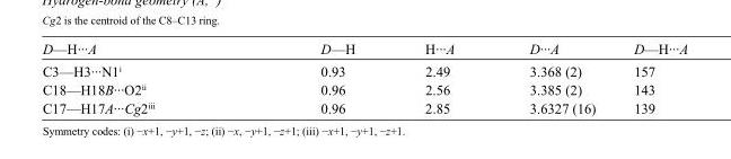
<table><tbody><tr><td>D—H···A</td><td>D—H</td><td>H···A</td><td>D···A</td><td>D—H···A</td></tr><tr><td>C3—H3···N1<sup>i</sup></td><td>0.93</td><td>2.49</td><td>3.368 (2)</td><td>157</td></tr><tr><td>C18—H18B···O2<sup>ii</sup></td><td>0.96</td><td>2.56</td><td>3.385 (2)</td><td>143</td></tr><tr><td>C17—H17A···Cg2<sup>iii</sup></td><td>0.96</td><td>2.85</td><td>3.6327 (16)</td><td>139</td></tr></tbody></table>